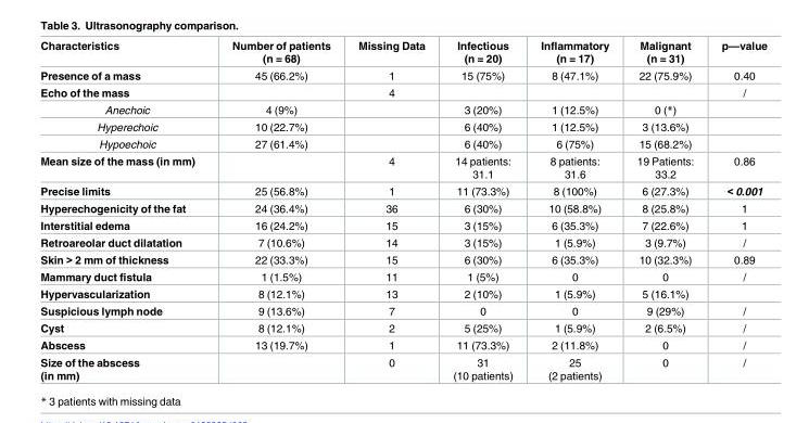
<table><thead><tr><td>Characteristics</td><td>Number of patients (n = 68)</td><td>Missing Data</td><td>Infectious (n = 20)</td><td>Inflammatory (n = 17)</td><td>Malignant (n = 31)</td><td>p—value</td></tr></thead><tbody><tr><td>Presence of a mass</td><td>45 (66.2%)</td><td>1</td><td>15 (75%)</td><td>8 (47.1%)</td><td>22 (75.9%)</td><td>0.40</td></tr><tr><td>Echo of the mass</td><td></td><td>4</td><td></td><td></td><td></td><td>/</td></tr><tr><td>Anechoic</td><td>4 (9%)</td><td></td><td>3 (20%)</td><td>1 (12.5%)</td><td>0 (*)</td><td></td></tr><tr><td>Hyperechoic</td><td>10 (22.7%)</td><td></td><td>6 (40%)</td><td>1 (12.5%)</td><td>3 (13.6%)</td><td></td></tr><tr><td>Hypoechoic</td><td>27 (61.4%)</td><td></td><td>6 (40%)</td><td>6 (75%)</td><td>15 (68.2%)</td><td></td></tr><tr><td>Mean size of the mass (in mm)</td><td></td><td>4</td><td>14 patients: 31.1</td><td>8 patients: 31.6</td><td>19 Patients: 33.2</td><td>0.86</td></tr><tr><td>Precise limits</td><td>25 (56.8%)</td><td>1</td><td>11 (73.3%)</td><td>8 (100%)</td><td>6 (27.3%)</td><td>&lt; 0.001</td></tr><tr><td>Hyperechogenicity of the fat</td><td>24 (36.4%)</td><td>36</td><td>6 (30%)</td><td>10 (58.8%)</td><td>8 (25.8%)</td><td>1</td></tr><tr><td>Interstitial edema</td><td>16 (24.2%)</td><td>15</td><td>3 (15%)</td><td>6 (35.3%)</td><td>7 (22.6%)</td><td>1</td></tr><tr><td>Retroareolar duct dilatation</td><td>7 (10.6%)</td><td>14</td><td>3 (15%)</td><td>1 (5.9%)</td><td>3 (9.7%)</td><td>/</td></tr><tr><td>Skin &gt; 2 mm of thickness</td><td>22 (33.3%)</td><td>15</td><td>6 (30%)</td><td>6 (35.3%)</td><td>10 (32.3%)</td><td>0.89</td></tr><tr><td>Mammary duct fistula</td><td>1 (1.5%)</td><td>11</td><td>1 (5%)</td><td>0</td><td>0</td><td>/</td></tr><tr><td>Hypervascularization</td><td>8 (12.1%)</td><td>13</td><td>2 (10%)</td><td>1 (5.9%)</td><td>5 (16.1%)</td><td></td></tr><tr><td>Suspicious lymph node</td><td>9 (13.6%)</td><td>7</td><td>0</td><td>0</td><td>9 (29%)</td><td>/</td></tr><tr><td>Cyst</td><td>8 (12.1%)</td><td>2</td><td>5 (25%)</td><td>1 (5.9%)</td><td>2 (6.5%)</td><td>/</td></tr><tr><td>Abscess</td><td>13 (19.7%)</td><td>1</td><td>11 (73.3%)</td><td>2 (11.8%)</td><td>0</td><td>/</td></tr><tr><td>Size of the abscess (in mm)</td><td></td><td>0</td><td>31 (10 patients)</td><td>25 (2 patients)</td><td>0</td><td>/</td></tr></tbody></table>